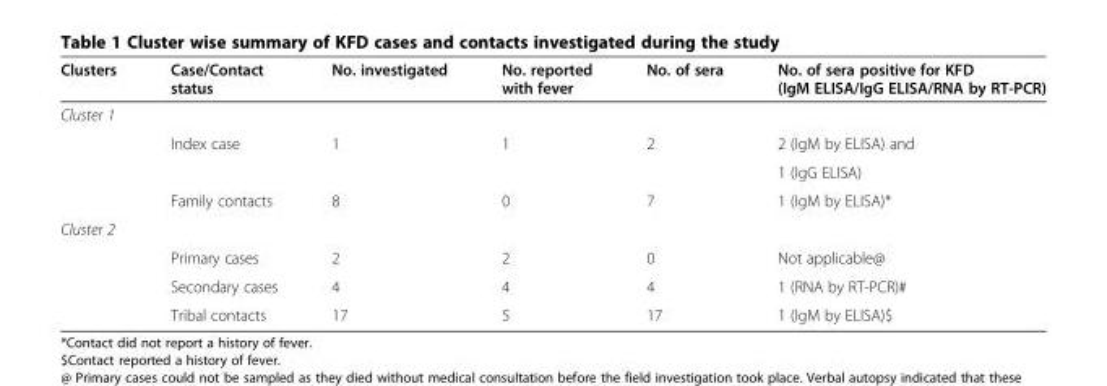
<table><thead><tr><td>Clusters</td><td>Case/Contact status</td><td>No. investigated</td><td>No. reported with fever</td><td>No. of sera</td><td>No. of sera positive for KFD (IgM ELISA/IgG ELISA/RNA by RT-PCR)</td></tr></thead><tbody><tr><td colspan="6">Cluster 1</td></tr><tr><td rowspan="2"></td><td rowspan="2">Index case</td><td rowspan="2">1</td><td rowspan="2">1</td><td rowspan="2">2</td><td>2 (IgM by ELISA) and</td></tr><tr><td>1 (IgG ELISA)</td></tr><tr><td></td><td>Family contacts</td><td>8</td><td>0</td><td>7</td><td>1 (IgM by ELISA)*</td></tr><tr><td colspan="6">Cluster 2</td></tr><tr><td></td><td>Primary cases</td><td>2</td><td>2</td><td>0</td><td>Not applicable@</td></tr><tr><td></td><td>Secondary cases</td><td>4</td><td>4</td><td>4</td><td>1 (RNA by RT-PCR)#</td></tr><tr><td></td><td>Tribal contacts</td><td>17</td><td>5</td><td>17</td><td>1 (IgM by ELISA)$</td></tr></tbody></table>